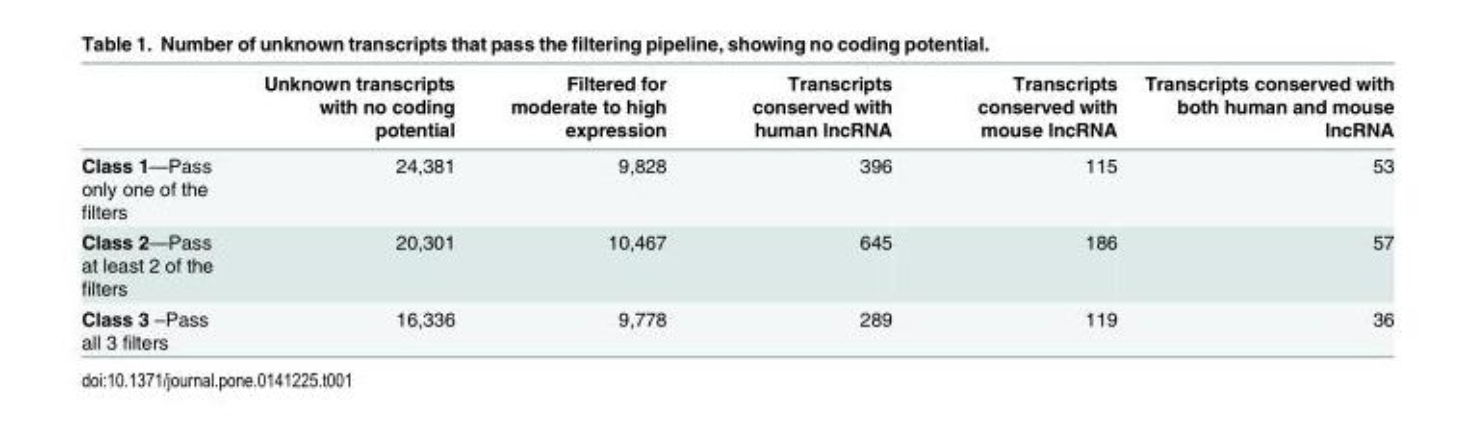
<table><thead><tr><td></td><td>Unknown transcripts with no coding potential</td><td>Filtered for moderate to high expression</td><td>Transcripts conserved with human lncRNA</td><td>Transcripts conserved with mouse lncRNA</td><td>Transcripts conserved with both human and mouse lncRNA</td></tr></thead><tbody><tr><td>Class 1—Pass only one of the filters</td><td>24,381</td><td>9,828</td><td>396</td><td>115</td><td>53</td></tr><tr><td>Class 2—Pass at least 2 of the filters</td><td>20,301</td><td>10,467</td><td>645</td><td>186</td><td>57</td></tr><tr><td>Class 3 –Pass all 3 filters</td><td>16,336</td><td>9,778</td><td>289</td><td>119</td><td>36</td></tr></tbody></table>